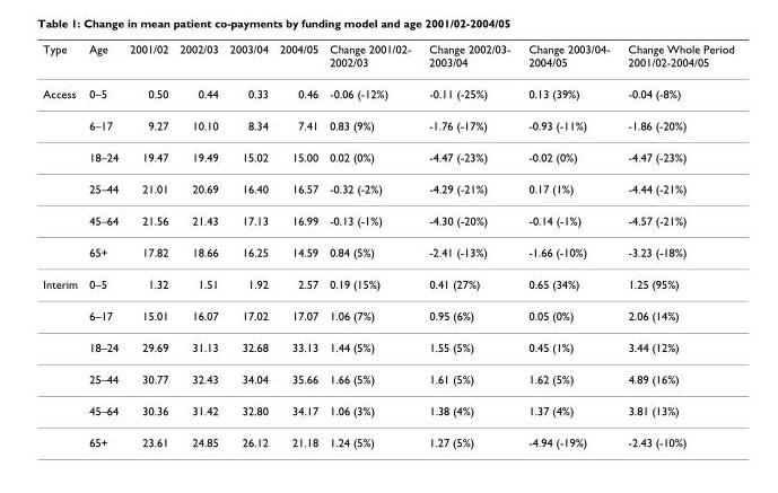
<table><thead><tr><td>Type</td><td>Age</td><td>2001/02</td><td>2002/03</td><td>2003/04</td><td>2004/05</td><td>Change 2001/02- 2002/03</td><td>Change 2002/03- 2003/04</td><td>Change 2003/04- 2004/05</td><td>Change Whole Period 2001/02-2004/05</td></tr></thead><tbody><tr><td rowspan="6">Access</td><td>0–5</td><td>0.50</td><td>0.44</td><td>0.33</td><td>0.46</td><td>-0.06 (-12%)</td><td>-0.11 (-25%)</td><td>0.13 (39%)</td><td>-0.04 (-8%)</td></tr><tr><td>6–17</td><td>9.27</td><td>10.10</td><td>8.34</td><td>7.41</td><td>0.83 (9%)</td><td>-1.76 (-17%)</td><td>-0.93 (-11%)</td><td>-1.86 (-20%)</td></tr><tr><td>18–24</td><td>19.47</td><td>19.49</td><td>15.02</td><td>15.00</td><td>0.02 (0%)</td><td>-4.47 (-23%)</td><td>-0.02 (0%)</td><td>-4.47 (-23%)</td></tr><tr><td>25–44</td><td>21.01</td><td>20.69</td><td>16.40</td><td>16.57</td><td>-0.32 (-2%)</td><td>-4.29 (-21%)</td><td>0.17 (1%)</td><td>-4.44 (-21%)</td></tr><tr><td>45–64</td><td>21.56</td><td>21.43</td><td>17.13</td><td>16.99</td><td>-0.13 (-1%)</td><td>-4.30 (-20%)</td><td>-0.14 (-1%)</td><td>-4.57 (-21%)</td></tr><tr><td>65+</td><td>17.82</td><td>18.66</td><td>16.25</td><td>14.59</td><td>0.84 (5%)</td><td>-2.41 (-13%)</td><td>-1.66 (-10%)</td><td>-3.23 (-18%)</td></tr><tr><td rowspan="6">Interim</td><td>0–5</td><td>1.32</td><td>1.51</td><td>1.92</td><td>2.57</td><td>0.19 (15%)</td><td>0.41 (27%)</td><td>0.65 (34%)</td><td>1.25 (95%)</td></tr><tr><td>6–17</td><td>15.01</td><td>16.07</td><td>17.02</td><td>17.07</td><td>1.06 (7%)</td><td>0.95 (6%)</td><td>0.05 (0%)</td><td>2.06 (14%)</td></tr><tr><td>18–24</td><td>29.69</td><td>31.13</td><td>32.68</td><td>33.13</td><td>1.44 (5%)</td><td>1.55 (5%)</td><td>0.45 (1%)</td><td>3.44 (12%)</td></tr><tr><td>25–44</td><td>30.77</td><td>32.43</td><td>34.04</td><td>35.66</td><td>1.66 (5%)</td><td>1.61 (5%)</td><td>1.62 (5%)</td><td>4.89 (16%)</td></tr><tr><td>45–64</td><td>30.36</td><td>31.42</td><td>32.80</td><td>34.17</td><td>1.06 (3%)</td><td>1.38 (4%)</td><td>1.37 (4%)</td><td>3.81 (13%)</td></tr><tr><td>65+</td><td>23.61</td><td>24.85</td><td>26.12</td><td>21.18</td><td>1.24 (5%)</td><td>1.27 (5%)</td><td>-4.94 (-19%)</td><td>-2.43 (-10%)</td></tr></tbody></table>